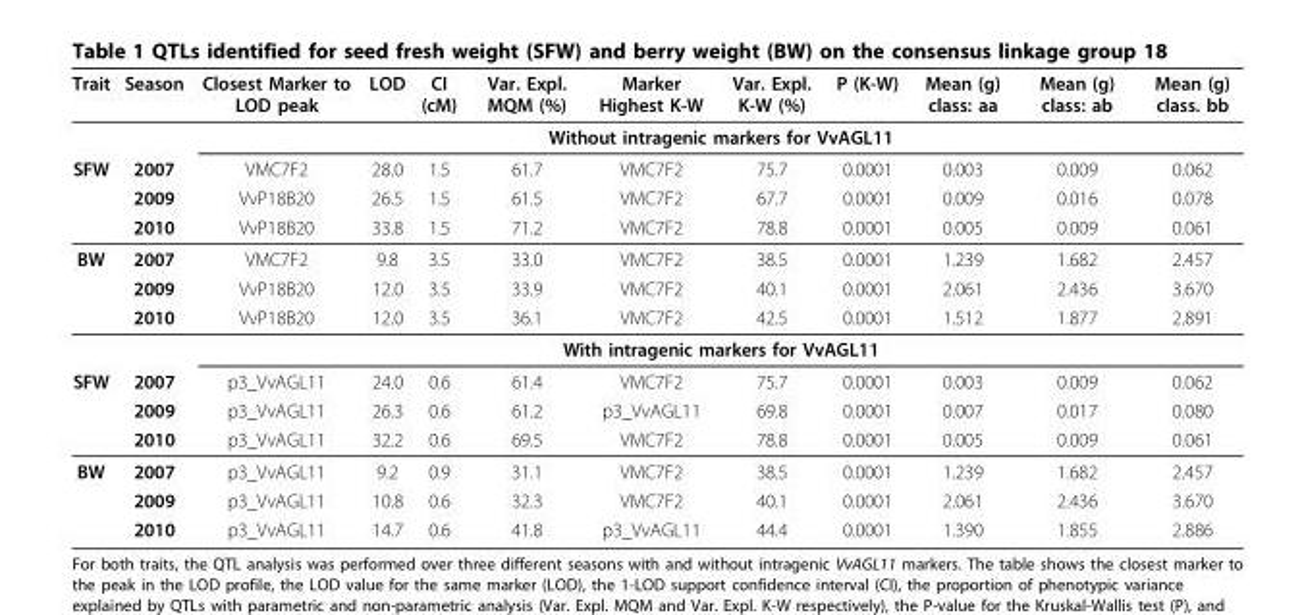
<table><thead><tr><td>Trait</td><td>Season</td><td>Closest Marker to LOD peak</td><td>LOD</td><td>CI (cM)</td><td>Var. Expl. MQM (%)</td><td>Marker Highest K-W</td><td>Var. Expl. K-W (%)</td><td>P (K-W)</td><td>Mean (g) class: aa</td><td>Mean (g) class: ab</td><td>Mean (g) class. bb</td></tr></thead><tbody><tr><td></td><td></td><td colspan="10">Without intragenic markers for VvAGL11</td></tr><tr><td rowspan="3">SFW</td><td>2007</td><td>VMC7F2</td><td>28.0</td><td>1.5</td><td>61.7</td><td>VMC7F2</td><td>75.7</td><td>0.0001</td><td>0.003</td><td>0.009</td><td>0.062</td></tr><tr><td>2009</td><td>VvP18B20</td><td>26.5</td><td>1.5</td><td>61.5</td><td>VMC7F2</td><td>67.7</td><td>0.0001</td><td>0.009</td><td>0.016</td><td>0.078</td></tr><tr><td>2010</td><td>VvP18B20</td><td>33.8</td><td>1.5</td><td>71.2</td><td>VMC7F2</td><td>78.8</td><td>0.0001</td><td>0.005</td><td>0.009</td><td>0.061</td></tr><tr><td rowspan="4">BW</td><td>2007</td><td>VMC7F2</td><td>9.8</td><td>3.5</td><td>33.0</td><td>VMC7F2</td><td>38.5</td><td>0.0001</td><td>1.239</td><td>1.682</td><td>2.457</td></tr><tr><td>2009</td><td>VvP18B20</td><td>12.0</td><td>3.5</td><td>33.9</td><td>VMC7F2</td><td>40.1</td><td>0.0001</td><td>2.061</td><td>2.436</td><td>3.670</td></tr><tr><td>2010</td><td>VvP18B20</td><td>12.0</td><td>3.5</td><td>36.1</td><td>VMC7F2</td><td>42.5</td><td>0.0001</td><td>1.512</td><td>1.877</td><td>2.891</td></tr><tr><td></td><td colspan="10">With intragenic markers for VvAGL11</td></tr><tr><td rowspan="3">SFW</td><td>2007</td><td>p3_VvAGL11</td><td>24.0</td><td>0.6</td><td>61.4</td><td>VMC7F2</td><td>75.7</td><td>0.0001</td><td>0.003</td><td>0.009</td><td>0.062</td></tr><tr><td>2009</td><td>p3_VvAGL11</td><td>26.3</td><td>0.6</td><td>61.2</td><td>p3_VvAGL11</td><td>69.8</td><td>0.0001</td><td>0.007</td><td>0.017</td><td>0.080</td></tr><tr><td>2010</td><td>p3_VvAGL11</td><td>32.2</td><td>0.6</td><td>69.5</td><td>VMC7F2</td><td>78.8</td><td>0.0001</td><td>0.005</td><td>0.009</td><td>0.061</td></tr><tr><td rowspan="3">BW</td><td>2007</td><td>p3_VvAGL11</td><td>9.2</td><td>0.9</td><td>31.1</td><td>VMC7F2</td><td>38.5</td><td>0.0001</td><td>1.239</td><td>1.682</td><td>2.457</td></tr><tr><td>2009</td><td>p3_VvAGL11</td><td>10.8</td><td>0.6</td><td>32.3</td><td>VMC7F2</td><td>40.1</td><td>0.0001</td><td>2.061</td><td>2.436</td><td>3.670</td></tr><tr><td>2010</td><td>p3_VvAGL11</td><td>14.7</td><td>0.6</td><td>41.8</td><td>p3_VvAGL11</td><td>44.4</td><td>0.0001</td><td>1.390</td><td>1.855</td><td>2.886</td></tr></tbody></table>